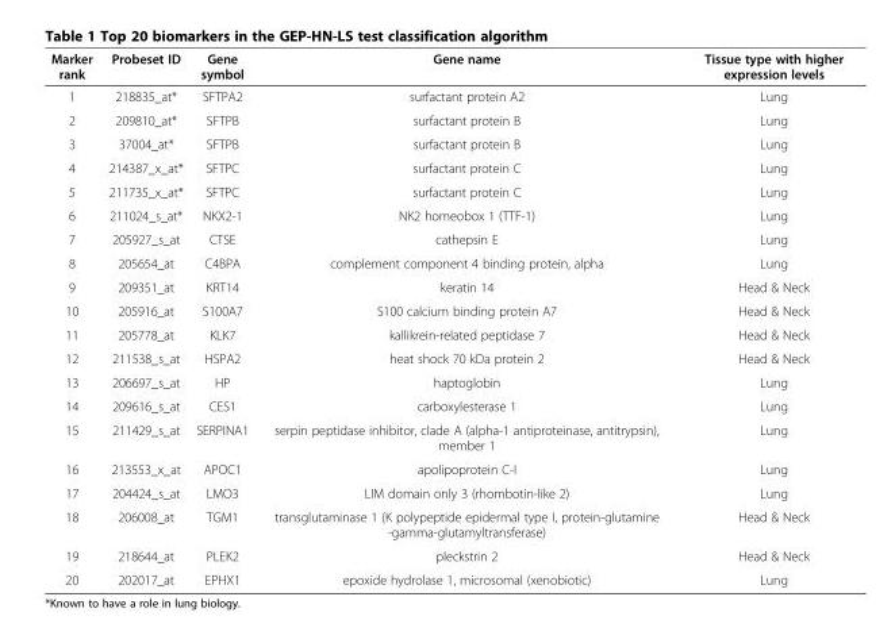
<table><thead><tr><td>Marker rank</td><td>Probeset ID</td><td>Gene symbol</td><td>Gene name</td><td>Tissue type with higher expression levels</td></tr></thead><tbody><tr><td>1</td><td>218835_at*</td><td>SFTPA2</td><td>surfactant protein A2</td><td>Lung</td></tr><tr><td>2</td><td>209810_at*</td><td>SFTPB</td><td>surfactant protein B</td><td>Lung</td></tr><tr><td>3</td><td>37004_at*</td><td>SFTPB</td><td>surfactant protein B</td><td>Lung</td></tr><tr><td>4</td><td>214387_x_at*</td><td>SFTPC</td><td>surfactant protein C</td><td>Lung</td></tr><tr><td>5</td><td>211735_x_at*</td><td>SFTPC</td><td>surfactant protein C</td><td>Lung</td></tr><tr><td>6</td><td>211024_s_at*</td><td>NKX2-1</td><td>NK2 homeobox 1 (TTF-1)</td><td>Lung</td></tr><tr><td>7</td><td>205927_s_at</td><td>CTSE</td><td>cathepsin E</td><td>Lung</td></tr><tr><td>8</td><td>205654_at</td><td>C4BPA</td><td>complement component 4 binding protein, alpha</td><td>Lung</td></tr><tr><td>9</td><td>209351_at</td><td>KRT14</td><td>keratin 14</td><td>Head &amp; Neck</td></tr><tr><td>10</td><td>205916_at</td><td>S100A7</td><td>S100 calcium binding protein A7</td><td>Head &amp; Neck</td></tr><tr><td>11</td><td>205778_at</td><td>KLK7</td><td>kallikrein-related peptidase 7</td><td>Head &amp; Neck</td></tr><tr><td>12</td><td>211538_s_at</td><td>HSPA2</td><td>heat shock 70 kDa protein 2</td><td>Head &amp; Neck</td></tr><tr><td>13</td><td>206697_s_at</td><td>HP</td><td>haptoglobin</td><td>Lung</td></tr><tr><td>14</td><td>209616_s_at</td><td>CES1</td><td>carboxylesterase 1</td><td>Lung</td></tr><tr><td>15</td><td>211429_s_at</td><td>SERPINA1</td><td>serpin peptidase inhibitor, clade A (alpha-1 antiproteinase, antitrypsin), member 1</td><td>Lung</td></tr><tr><td>16</td><td>213553_x_at</td><td>APOC1</td><td>apolipoprotein C-I</td><td>Lung</td></tr><tr><td>17</td><td>204424_s_at</td><td>LMO3</td><td>LIM domain only 3 (rhombotin-like 2)</td><td>Lung</td></tr><tr><td>18</td><td>206008_at</td><td>TGM1</td><td>transglutaminase 1 (K polypeptide epidermal type I, protein-glutamine -gamma-glutamyltransferase)</td><td>Head &amp; Neck</td></tr><tr><td>19</td><td>218644_at</td><td>PLEK2</td><td>pleckstrin 2</td><td>Head &amp; Neck</td></tr><tr><td>20</td><td>202017_at</td><td>EPHX1</td><td>epoxide hydrolase 1, microsomal (xenobiotic)</td><td>Lung</td></tr></tbody></table>